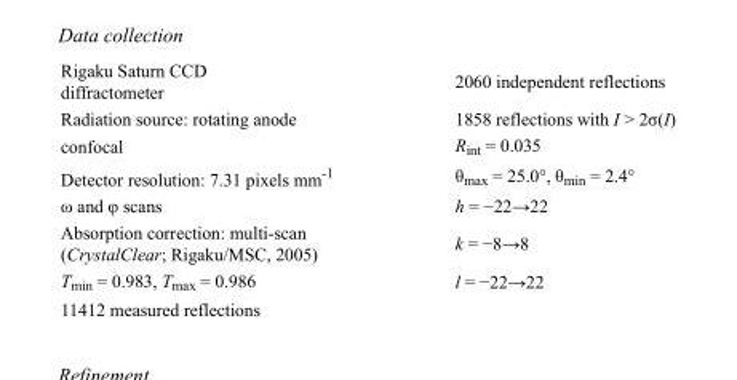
<table><tbody><tr><td>Rigaku Saturn CCD diffractometer</td><td>2060 independent reflections</td></tr><tr><td>Radiation source: rotating anode</td><td>1858 reflections with I &gt; 2σ(I)</td></tr><tr><td>confocal</td><td>R<sub>int</sub> = 0.035</td></tr><tr><td>Detector resolution: 7.31 pixels mm<sup>-1</sup></td><td>θ<sub>max</sub> = 25.0°, θ<sub>min</sub> = 2.4°</td></tr><tr><td>ω and φ scans</td><td>h = −22→22</td></tr><tr><td>Absorption correction: multi-scan (CrystalClear; Rigaku/MSC, 2005)</td><td>k = −8→8</td></tr><tr><td>T<sub>min</sub> = 0.983, T<sub>max</sub> = 0.986</td><td>l = −22→22</td></tr><tr><td>11412 measured reflections</td><td></td></tr></tbody></table>